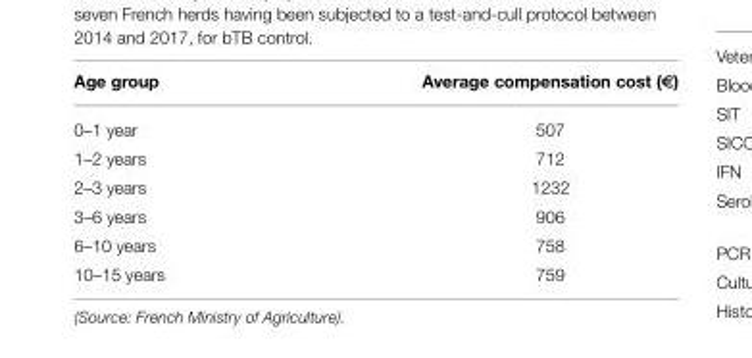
<table><thead><tr><td>Age group</td><td>Average compensation cost (€)</td></tr></thead><tbody><tr><td>0–1 year</td><td>507</td></tr><tr><td>1–2 years</td><td>712</td></tr><tr><td>2–3 years</td><td>1232</td></tr><tr><td>3–6 years</td><td>906</td></tr><tr><td>6–10 years</td><td>758</td></tr><tr><td>10–15 years</td><td>759</td></tr></tbody></table>